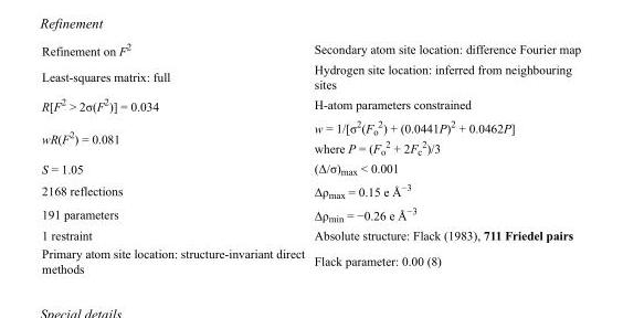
<table><tbody><tr><td>Refinement on F<sup>2</sup></td><td>Secondary atom site location: difference Fourier map</td></tr><tr><td>Least-squares matrix: full</td><td>Hydrogen site location: inferred from neighbouring sites</td></tr><tr><td>R[F<sup>2</sup> &gt; 2σ(F<sup>2</sup>)] = 0.034</td><td>H-atom parameters constrained</td></tr><tr><td>wR(F<sup>2</sup>) = 0.081</td><td>w = 1/[σ<sup>2</sup>(F<sub>o</sub> <sup>2</sup>) + (0.0441P)<sup>2</sup> + 0.0462P] where P = (F<sub>o</sub> <sup>2</sup> + 2F<sub>c</sub> <sup>2</sup>)/3</td></tr><tr><td>S = 1.05</td><td>(Δ/σ)<sub>max</sub> &lt; 0.001</td></tr><tr><td>2168 reflections</td><td>Δρ<sub>max</sub> = 0.15 e Å<sup>−3</sup></td></tr><tr><td>191 parameters</td><td>Δρ<sub>min</sub> = −0.26 e Å<sup>−3</sup></td></tr><tr><td>1 restraint</td><td>Absolute structure: Flack (1983), 711 Friedel pairs</td></tr><tr><td>Primary atom site location: structure-invariant direct methods</td><td>Flack parameter: 0.00 (8)</td></tr></tbody></table>